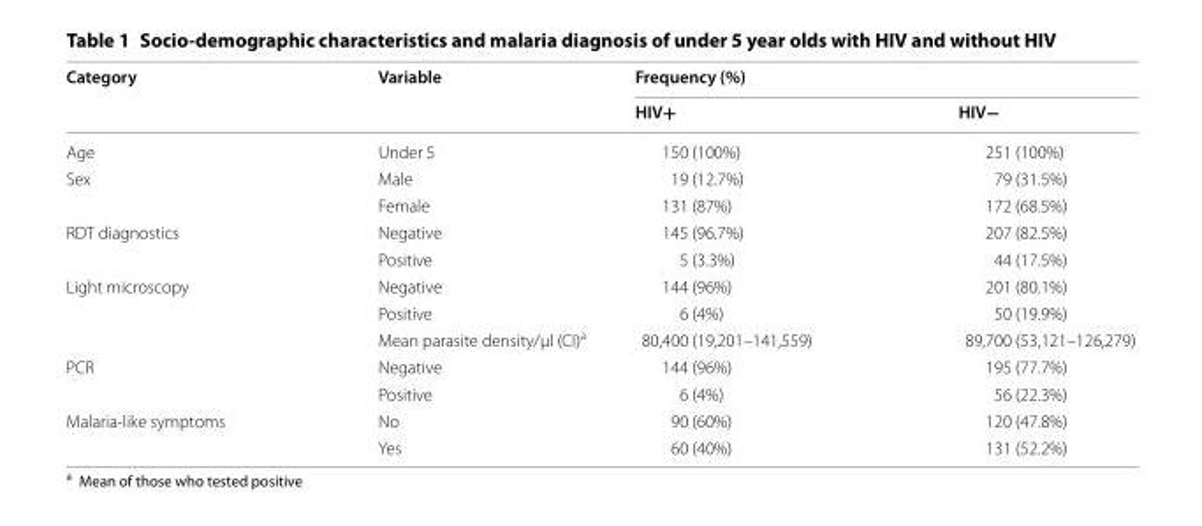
<table><thead><tr><td rowspan="2">Category</td><td rowspan="2">Variable</td><td colspan="2">Frequency (%)</td></tr><tr><td>HIV+</td><td>HIV−</td></tr></thead><tbody><tr><td>Age</td><td>Under 5</td><td>150 (100%)</td><td>251 (100%)</td></tr><tr><td rowspan="2">Sex</td><td>Male</td><td>19 (12.7%)</td><td>79 (31.5%)</td></tr><tr><td>Female</td><td>131 (87%)</td><td>172 (68.5%)</td></tr><tr><td rowspan="2">RDT diagnostics</td><td>Negative</td><td>145 (96.7%)</td><td>207 (82.5%)</td></tr><tr><td>Positive</td><td>5 (3.3%)</td><td>44 (17.5%)</td></tr><tr><td rowspan="3">Light microscopy</td><td>Negative</td><td>144 (96%)</td><td>201 (80.1%)</td></tr><tr><td>Positive</td><td>6 (4%)</td><td>50 (19.9%)</td></tr><tr><td>Mean parasite density/µl (CI)<sup>a</sup></td><td>80,400 (19,201–141,559)</td><td>89,700 (53,121–126,279)</td></tr><tr><td rowspan="2">PCR</td><td>Negative</td><td>144 (96%)</td><td>195 (77.7%)</td></tr><tr><td>Positive</td><td>6 (4%)</td><td>56 (22.3%)</td></tr><tr><td rowspan="2">Malaria-like symptoms</td><td>No</td><td>90 (60%)</td><td>120 (47.8%)</td></tr><tr><td>Yes</td><td>60 (40%)</td><td>131 (52.2%)</td></tr></tbody></table>